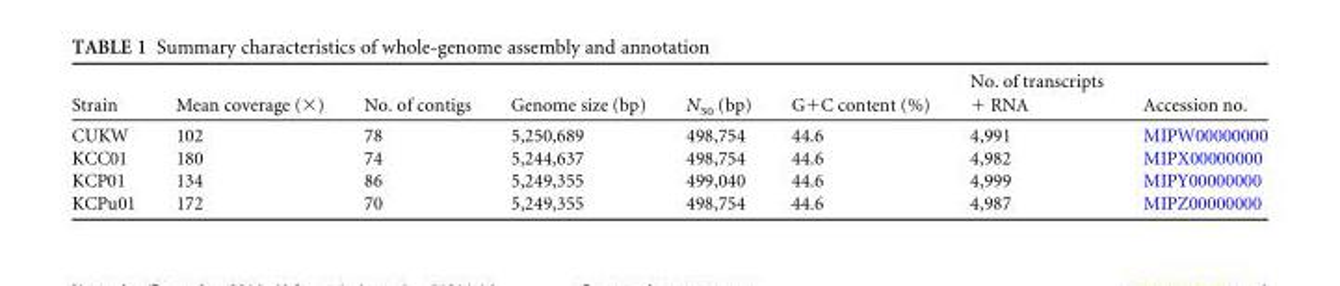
<table><thead><tr><td>Strain</td><td>Mean coverage (×)</td><td>No. of contigs</td><td>Genome size (bp)</td><td>N<sub>50</sub> (bp)</td><td>G+C content (%)</td><td>No. of transcripts + RNA</td><td>Accession no.</td></tr></thead><tbody><tr><td>CUKW</td><td>102</td><td>78</td><td>5,250,689</td><td>498,754</td><td>44.6</td><td>4,991</td><td>MIPW00000000</td></tr><tr><td>KCC01</td><td>180</td><td>74</td><td>5,244,637</td><td>498,754</td><td>44.6</td><td>4,982</td><td>MIPX00000000</td></tr><tr><td>KCP01</td><td>134</td><td>86</td><td>5,249,355</td><td>499,040</td><td>44.6</td><td>4,999</td><td>MIPY00000000</td></tr><tr><td>KCPu01</td><td>172</td><td>70</td><td>5,249,355</td><td>498,754</td><td>44.6</td><td>4,987</td><td>MIPZ00000000</td></tr></tbody></table>